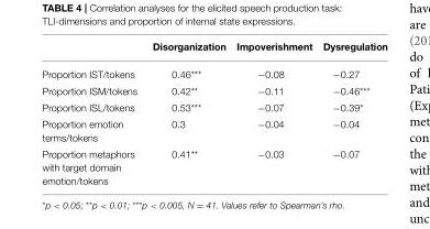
<table><thead><tr><td></td><td>Disorganization</td><td>Impoverishment</td><td>Dysregulation</td></tr></thead><tbody><tr><td>Proportion IST/tokens</td><td>0.46***</td><td>−0.08</td><td>−0.27</td></tr><tr><td>Proportion ISM/tokens</td><td>0.42**</td><td>−0.11</td><td>−0.46***</td></tr><tr><td>Proportion ISL/tokens</td><td>0.53***</td><td>−0.07</td><td>−0.39*</td></tr><tr><td>Proportion emotion terms/tokens</td><td>0.3</td><td>−0.04</td><td>−0.04</td></tr><tr><td>Proportion metaphors with target domain emotion/tokens</td><td>0.41**</td><td>−0.03</td><td>−0.07</td></tr></tbody></table>